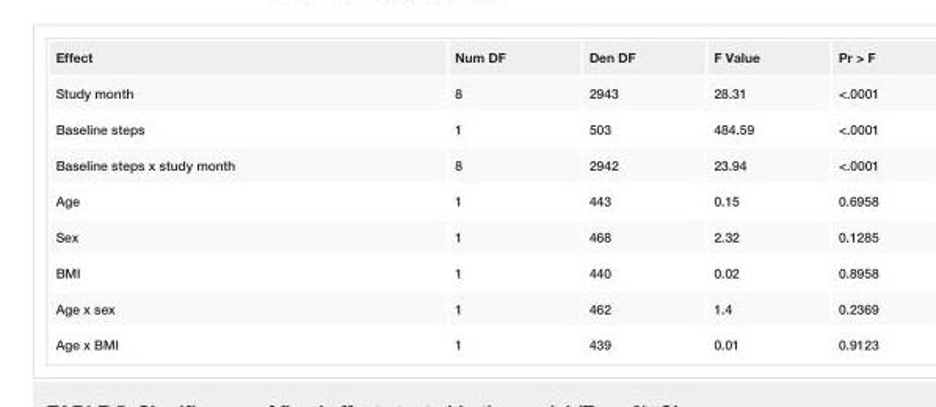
<table><tbody><tr><td>Effect</td><td>Num DF</td><td>Den DF</td><td>F Value</td><td>Pr &gt; F</td></tr><tr><td>Study month</td><td>8</td><td>2943</td><td>28.31</td><td>&lt;.0001</td></tr><tr><td>Baseline steps</td><td>1</td><td>503</td><td>484.59</td><td>&lt;.0001</td></tr><tr><td>Baseline steps x study month</td><td>8</td><td>2942</td><td>23.94</td><td>&lt;.0001</td></tr><tr><td>Age</td><td>1</td><td>443</td><td>0.15</td><td>0.6958</td></tr><tr><td>Sex</td><td>1</td><td>468</td><td>2.32</td><td>0.1285</td></tr><tr><td>BMI</td><td>1</td><td>440</td><td>0.02</td><td>0.8958</td></tr><tr><td>Age x sex</td><td>1</td><td>462</td><td>1.4</td><td>0.2369</td></tr><tr><td>Age x BMI</td><td>1</td><td>439</td><td>0.01</td><td>0.9123</td></tr></tbody></table>